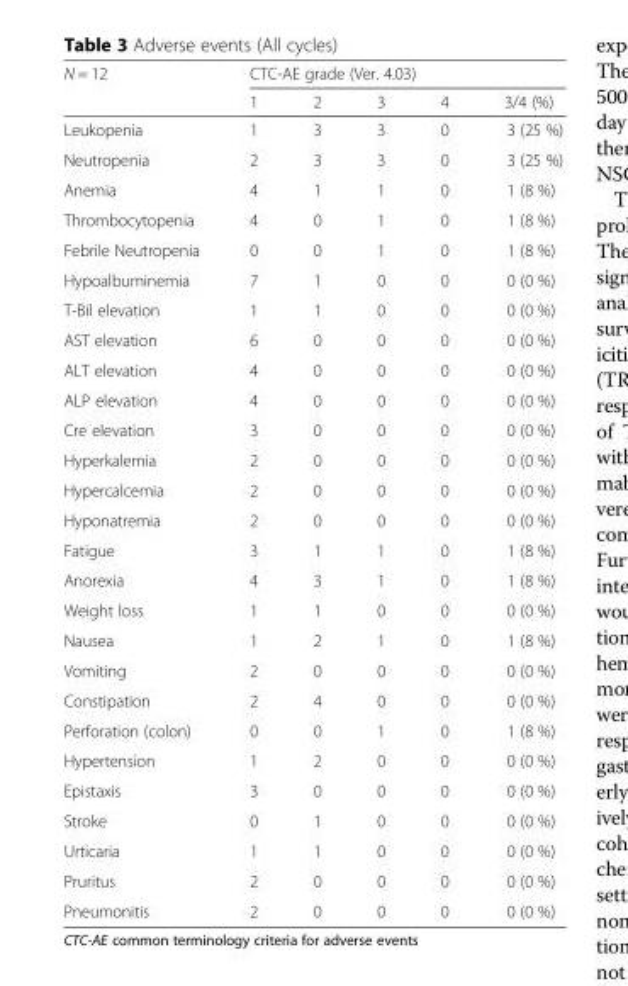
<table><thead><tr><td rowspan="2">N = 12</td><td colspan="5">CTC-AE grade (Ver. 4.03)</td></tr><tr><td>1</td><td>2</td><td>3</td><td>4</td><td>3/4 (%)</td></tr></thead><tbody><tr><td>Leukopenia</td><td>1</td><td>3</td><td>3</td><td>0</td><td>3 (25 %)</td></tr><tr><td>Neutropenia</td><td>2</td><td>3</td><td>3</td><td>0</td><td>3 (25 %)</td></tr><tr><td>Anemia</td><td>4</td><td>1</td><td>1</td><td>0</td><td>1 (8 %)</td></tr><tr><td>Thrombocytopenia</td><td>4</td><td>0</td><td>1</td><td>0</td><td>1 (8 %)</td></tr><tr><td>Febrile Neutropenia</td><td>0</td><td>0</td><td>1</td><td>0</td><td>1 (8 %)</td></tr><tr><td>Hypoalbuminemia</td><td>7</td><td>1</td><td>0</td><td>0</td><td>0 (0 %)</td></tr><tr><td>T-Bil elevation</td><td>1</td><td>1</td><td>0</td><td>0</td><td>0 (0 %)</td></tr><tr><td>AST elevation</td><td>6</td><td>0</td><td>0</td><td>0</td><td>0 (0 %)</td></tr><tr><td>ALT elevation</td><td>4</td><td>0</td><td>0</td><td>0</td><td>0 (0 %)</td></tr><tr><td>ALP elevation</td><td>4</td><td>0</td><td>0</td><td>0</td><td>0 (0 %)</td></tr><tr><td>Cre elevation</td><td>3</td><td>0</td><td>0</td><td>0</td><td>0 (0 %)</td></tr><tr><td>Hyperkalemia</td><td>2</td><td>0</td><td>0</td><td>0</td><td>0 (0 %)</td></tr><tr><td>Hypercalcemia</td><td>2</td><td>0</td><td>0</td><td>0</td><td>0 (0 %)</td></tr><tr><td>Hyponatremia</td><td>2</td><td>0</td><td>0</td><td>0</td><td>0 (0 %)</td></tr><tr><td>Fatigue</td><td>3</td><td>1</td><td>1</td><td>0</td><td>1 (8 %)</td></tr><tr><td>Anorexia</td><td>4</td><td>3</td><td>1</td><td>0</td><td>1 (8 %)</td></tr><tr><td>Weight loss</td><td>1</td><td>1</td><td>0</td><td>0</td><td>0 (0 %)</td></tr><tr><td>Nausea</td><td>1</td><td>2</td><td>1</td><td>0</td><td>1 (8 %)</td></tr><tr><td>Vomiting</td><td>2</td><td>0</td><td>0</td><td>0</td><td>0 (0 %)</td></tr><tr><td>Constipation</td><td>2</td><td>4</td><td>0</td><td>0</td><td>0 (0 %)</td></tr><tr><td>Perforation (colon)</td><td>0</td><td>0</td><td>1</td><td>0</td><td>1 (8 %)</td></tr><tr><td>Hypertension</td><td>1</td><td>2</td><td>0</td><td>0</td><td>0 (0 %)</td></tr><tr><td>Epistaxis</td><td>3</td><td>0</td><td>0</td><td>0</td><td>0 (0 %)</td></tr><tr><td>Stroke</td><td>0</td><td>1</td><td>0</td><td>0</td><td>0 (0 %)</td></tr><tr><td>Urticaria</td><td>1</td><td>1</td><td>0</td><td>0</td><td>0 (0 %)</td></tr><tr><td>Pruritus</td><td>2</td><td>0</td><td>0</td><td>0</td><td>0 (0 %)</td></tr><tr><td>Pneumonitis</td><td>2</td><td>0</td><td>0</td><td>0</td><td>0 (0 %)</td></tr></tbody></table>